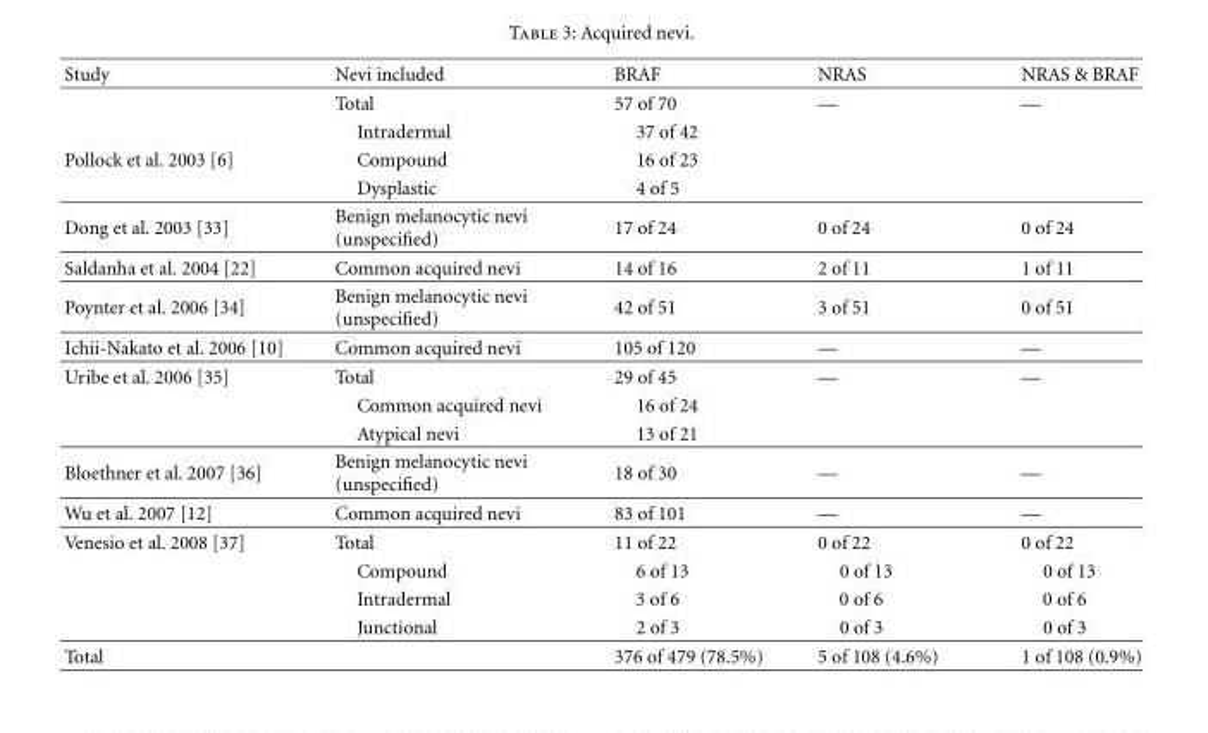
<table><thead><tr><td>Study</td><td>Nevi included</td><td>BRAF</td><td>NRAS</td><td>NRAS &amp; BRAF</td></tr></thead><tbody><tr><td></td><td>Total</td><td>57 of 70</td><td>—</td><td>—</td></tr><tr><td></td><td>Intradermal</td><td>37 of 42</td><td></td><td></td></tr><tr><td rowspan="2">Pollock et al. 2003 [6]</td><td>Compound</td><td>16 of 23</td><td></td><td></td></tr><tr><td>Dysplastic</td><td>4 of 5</td><td></td><td></td></tr><tr><td>Dong et al. 2003 [33]</td><td>Benign melanocytic nevi (unspecified)</td><td>17 of 24</td><td>0 of 24</td><td>0 of 24</td></tr><tr><td>Saldanha et al. 2004 [22]</td><td>Common acquired nevi</td><td>14 of 16</td><td>2 of 11</td><td>1 of 11</td></tr><tr><td>Poynter et al. 2006 [34]</td><td>Benign melanocytic nevi (unspecified)</td><td>42 of 51</td><td>3 of 51</td><td>0 of 51</td></tr><tr><td>Ichii-Nakato et al. 2006 [10]</td><td>Common acquired nevi</td><td>105 of 120</td><td>—</td><td>—</td></tr><tr><td rowspan="3">Uribe et al. 2006 [35]</td><td>Total</td><td>29 of 45</td><td>—</td><td>—</td></tr><tr><td>Common acquired nevi</td><td>16 of 24</td><td></td><td></td></tr><tr><td>Atypical nevi</td><td>13 of 21</td><td></td><td></td></tr><tr><td>Bloethner et al. 2007 [36]</td><td>Benign melanocytic nevi (unspecified)</td><td>18 of 30</td><td>—</td><td>—</td></tr><tr><td>Wu et al. 2007 [12]</td><td>Common acquired nevi</td><td>83 of 101</td><td>—</td><td>—</td></tr><tr><td rowspan="4">Venesio et al. 2008 [37]</td><td>Total</td><td>11 of 22</td><td>0 of 22</td><td>0 of 22</td></tr><tr><td>Compound</td><td>6 of 13</td><td>0 of 13</td><td>0 of 13</td></tr><tr><td>Intradermal</td><td>3 of 6</td><td>0 of 6</td><td>0 of 6</td></tr><tr><td>Junctional</td><td>2 of 3</td><td>0 of 3</td><td>0 of 3</td></tr><tr><td>Total</td><td></td><td>376 of 479 (78.5%)</td><td>5 of 108 (4.6%)</td><td>1 of 108 (0.9%)</td></tr></tbody></table>